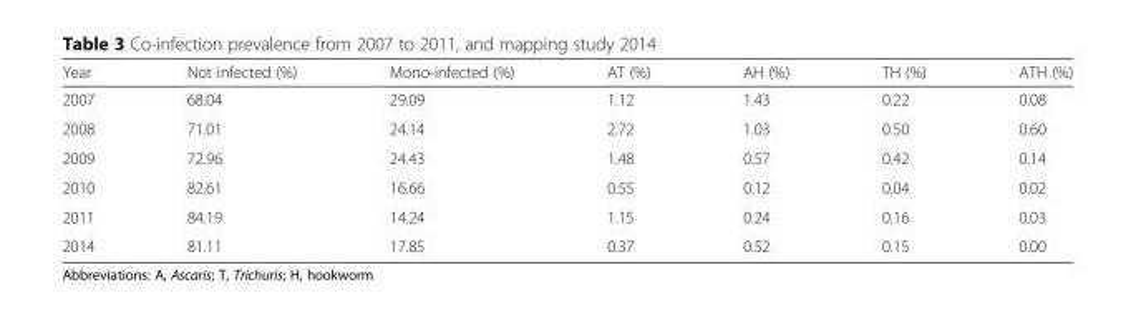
<table><thead><tr><td>Year</td><td>Not infected (%)</td><td>Mono-infected (%)</td><td>AT (%)</td><td>AH (%)</td><td>TH (%)</td><td>ATH (%)</td></tr></thead><tbody><tr><td>2007</td><td>68.04</td><td>29.09</td><td>1.12</td><td>1.43</td><td>0.22</td><td>0.08</td></tr><tr><td>2008</td><td>71.01</td><td>24.14</td><td>2.72</td><td>1.03</td><td>0.50</td><td>0.60</td></tr><tr><td>2009</td><td>72.96</td><td>24.43</td><td>1.48</td><td>0.57</td><td>0.42</td><td>0.14</td></tr><tr><td>2010</td><td>82.61</td><td>16.66</td><td>0.55</td><td>0.12</td><td>0.04</td><td>0.02</td></tr><tr><td>2011</td><td>84.19</td><td>14.24</td><td>1.15</td><td>0.24</td><td>0.16</td><td>0.03</td></tr><tr><td>2014</td><td>81.11</td><td>17.85</td><td>0.37</td><td>0.52</td><td>0.15</td><td>0.00</td></tr></tbody></table>